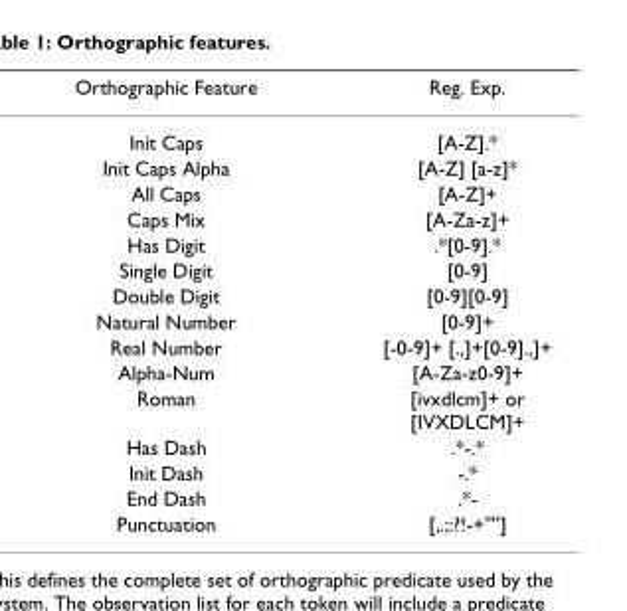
<table><thead><tr><td>Orthographic Feature</td><td>Reg. Exp.</td></tr></thead><tbody><tr><td>Init Caps</td><td>[A-Z].*</td></tr><tr><td>Init Caps Alpha</td><td>[A-Z] [a-z]*</td></tr><tr><td>All Caps</td><td>[A-Z]+</td></tr><tr><td>Caps Mix</td><td>[A-Za-z]+</td></tr><tr><td>Has Digit</td><td>.*[0-9].*</td></tr><tr><td>Single Digit</td><td>[0-9]</td></tr><tr><td>Double Digit</td><td>[0-9][0-9]</td></tr><tr><td>Natural Number</td><td>[0-9]+</td></tr><tr><td>Real Number</td><td>[-0-9]+ [.,]+[0-9].,]+</td></tr><tr><td>Alpha-Num</td><td>[A-Za-z0-9]+</td></tr><tr><td>Roman</td><td>[ivxdlcm]+ or [IVXDLCM]+</td></tr><tr><td>Has Dash</td><td>.*-.*</td></tr><tr><td>Init Dash</td><td>-.*</td></tr><tr><td>End Dash</td><td>.*-</td></tr><tr><td>Punctuation</td><td>[,.;:?!-+&#x27;&quot;&#x27;]</td></tr></tbody></table>